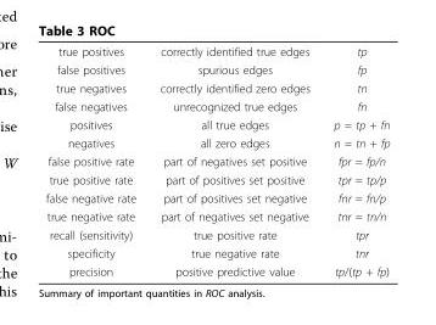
<table><tbody><tr><td>true positives</td><td>correctly identified true edges</td><td>tp</td></tr><tr><td>false positives</td><td>spurious edges</td><td>fp</td></tr><tr><td>true negatives</td><td>correctly identified zero edges</td><td>tn</td></tr><tr><td>false negatives</td><td>unrecognized true edges</td><td>fn</td></tr><tr><td>positives</td><td>all true edges</td><td>p = tp + fn</td></tr><tr><td>negatives</td><td>all zero edges</td><td>n = tn + fp</td></tr><tr><td>false positive rate</td><td>part of negatives set positive</td><td>fpr = fp/n</td></tr><tr><td>true positive rate</td><td>part of positives set positive</td><td>tpr = tp/p</td></tr><tr><td>false negative rate</td><td>part of positives set negative</td><td>fnr = fn/p</td></tr><tr><td>true negative rate</td><td>part of negatives set negative</td><td>tnr = tn/n</td></tr><tr><td>recall (sensitivity)</td><td>true positive rate</td><td>tpr</td></tr><tr><td>specificity</td><td>true negative rate</td><td>tnr</td></tr><tr><td>precision</td><td>positive predictive value</td><td>tp/(tp + fp)</td></tr></tbody></table>